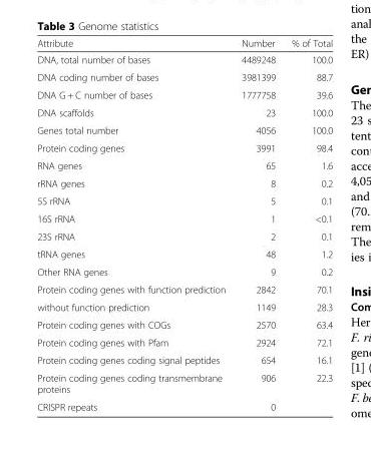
<table><thead><tr><td>Attribute</td><td>Number</td><td>% of Total</td></tr></thead><tbody><tr><td>DNA, total number of bases</td><td>4489248</td><td>100.0</td></tr><tr><td>DNA coding number of bases</td><td>3981399</td><td>88.7</td></tr><tr><td>DNA G + C number of bases</td><td>1777758</td><td>39.6</td></tr><tr><td>DNA scaffolds</td><td>23</td><td>100.0</td></tr><tr><td>Genes total number</td><td>4056</td><td>100.0</td></tr><tr><td>Protein coding genes</td><td>3991</td><td>98.4</td></tr><tr><td>RNA genes</td><td>65</td><td>1.6</td></tr><tr><td>rRNA genes</td><td>8</td><td>0.2</td></tr><tr><td>5S rRNA</td><td>5</td><td>0.1</td></tr><tr><td>16S rRNA</td><td>1</td><td>&lt;0.1</td></tr><tr><td>23S rRNA</td><td>2</td><td>0.1</td></tr><tr><td>tRNA genes</td><td>48</td><td>1.2</td></tr><tr><td>Other RNA genes</td><td>9</td><td>0.2</td></tr><tr><td>Protein coding genes with function prediction</td><td>2842</td><td>70.1</td></tr><tr><td>without function prediction</td><td>1149</td><td>28.3</td></tr><tr><td>Protein coding genes with COGs</td><td>2570</td><td>63.4</td></tr><tr><td>Protein coding genes with Pfam</td><td>2924</td><td>72.1</td></tr><tr><td>Protein coding genes coding signal peptides</td><td>654</td><td>16.1</td></tr><tr><td>Protein coding genes coding transmembrane proteins</td><td>906</td><td>22.3</td></tr><tr><td>CRISPR repeats</td><td>0</td><td></td></tr></tbody></table>